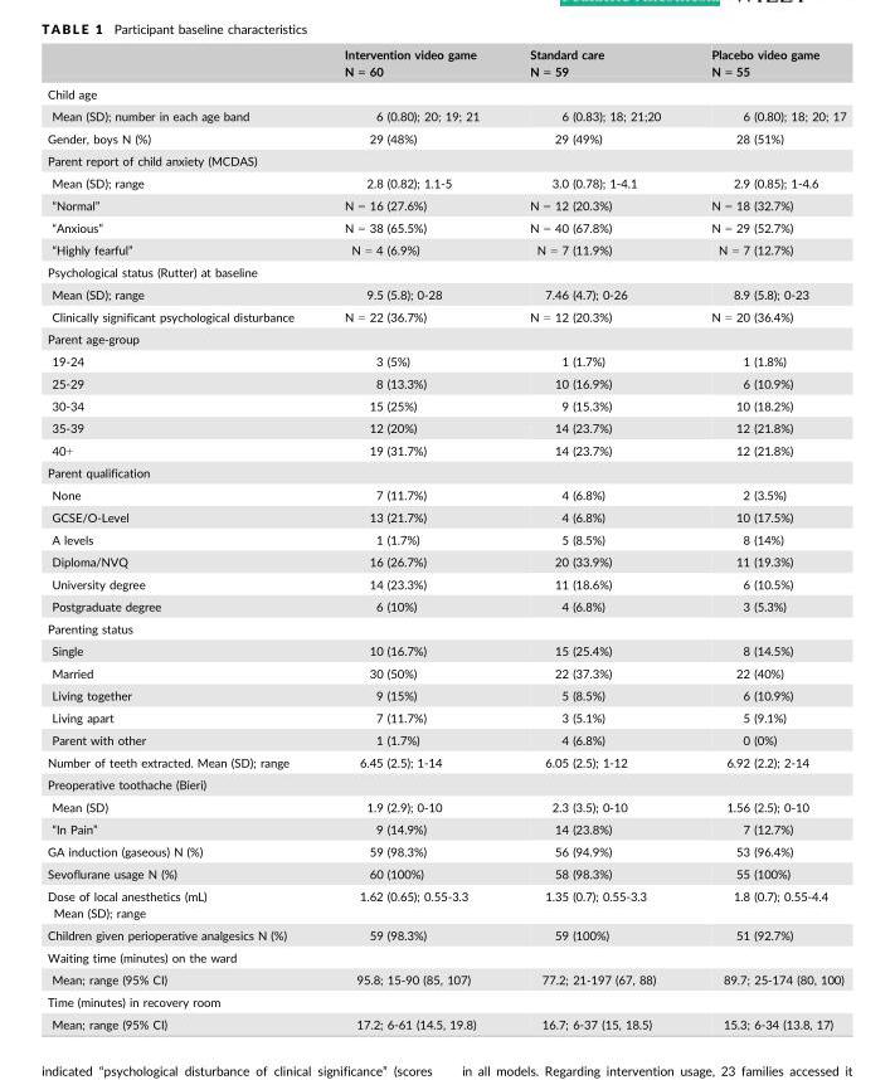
<table><thead><tr><td></td><td>Intervention video game N = 60</td><td>Standard care N = 59</td><td>Placebo video game N = 55</td></tr></thead><tbody><tr><td colspan="4">Child age</td></tr><tr><td>Mean (SD); number in each age band</td><td>6 (0.80); 20; 19; 21</td><td>6 (0.83); 18; 21;20</td><td>6 (0.80); 18; 20; 17</td></tr><tr><td>Gender, boys N (%)</td><td>29 (48%)</td><td>29 (49%)</td><td>28 (51%)</td></tr><tr><td colspan="4">Parent report of child anxiety (MCDAS)</td></tr><tr><td>Mean (SD); range</td><td>2.8 (0.82); 1.1-5</td><td>3.0 (0.78); 1-4.1</td><td>2.9 (0.85); 1-4.6</td></tr><tr><td>“Normal”</td><td>N = 16 (27.6%)</td><td>N = 12 (20.3%)</td><td>N = 18 (32.7%)</td></tr><tr><td>“Anxious”</td><td>N = 38 (65.5%)</td><td>N = 40 (67.8%)</td><td>N = 29 (52.7%)</td></tr><tr><td>“Highly fearful”</td><td>N = 4 (6.9%)</td><td>N = 7 (11.9%)</td><td>N = 7 (12.7%)</td></tr><tr><td colspan="4">Psychological status (Rutter) at baseline</td></tr><tr><td>Mean (SD); range</td><td>9.5 (5.8); 0-28</td><td>7.46 (4.7); 0-26</td><td>8.9 (5.8); 0-23</td></tr><tr><td>Clinically significant psychological disturbance</td><td>N = 22 (36.7%)</td><td>N = 12 (20.3%)</td><td>N = 20 (36.4%)</td></tr><tr><td colspan="4">Parent age-group</td></tr><tr><td>19-24</td><td>3 (5%)</td><td>1 (1.7%)</td><td>1 (1.8%)</td></tr><tr><td>25-29</td><td>8 (13.3%)</td><td>10 (16.9%)</td><td>6 (10.9%)</td></tr><tr><td>30-34</td><td>15 (25%)</td><td>9 (15.3%)</td><td>10 (18.2%)</td></tr><tr><td>35-39</td><td>12 (20%)</td><td>14 (23.7%)</td><td>12 (21.8%)</td></tr><tr><td>40+</td><td>19 (31.7%)</td><td>14 (23.7%)</td><td>12 (21.8%)</td></tr><tr><td colspan="4">Parent qualification</td></tr><tr><td>None</td><td>7 (11.7%)</td><td>4 (6.8%)</td><td>2 (3.5%)</td></tr><tr><td>GCSE/O-Level</td><td>13 (21.7%)</td><td>4 (6.8%)</td><td>10 (17.5%)</td></tr><tr><td>A levels</td><td>1 (1.7%)</td><td>5 (8.5%)</td><td>8 (14%)</td></tr><tr><td>Diploma/NVQ</td><td>16 (26.7%)</td><td>20 (33.9%)</td><td>11 (19.3%)</td></tr><tr><td>University degree</td><td>14 (23.3%)</td><td>11 (18.6%)</td><td>6 (10.5%)</td></tr><tr><td>Postgraduate degree</td><td>6 (10%)</td><td>4 (6.8%)</td><td>3 (5.3%)</td></tr><tr><td colspan="4">Parenting status</td></tr><tr><td>Single</td><td>10 (16.7%)</td><td>15 (25.4%)</td><td>8 (14.5%)</td></tr><tr><td>Married</td><td>30 (50%)</td><td>22 (37.3%)</td><td>22 (40%)</td></tr><tr><td>Living together</td><td>9 (15%)</td><td>5 (8.5%)</td><td>6 (10.9%)</td></tr><tr><td>Living apart</td><td>7 (11.7%)</td><td>3 (5.1%)</td><td>5 (9.1%)</td></tr><tr><td>Parent with other</td><td>1 (1.7%)</td><td>4 (6.8%)</td><td>0 (0%)</td></tr><tr><td>Number of teeth extracted. Mean (SD); range</td><td>6.45 (2.5); 1-14</td><td>6.05 (2.5); 1-12</td><td>6.92 (2.2); 2-14</td></tr><tr><td colspan="4">Preoperative toothache (Bieri)</td></tr><tr><td>Mean (SD)</td><td>1.9 (2.9); 0-10</td><td>2.3 (3.5); 0-10</td><td>1.56 (2.5); 0-10</td></tr><tr><td>“In Pain”</td><td>9 (14.9%)</td><td>14 (23.8%)</td><td>7 (12.7%)</td></tr><tr><td>GA induction (gaseous) N (%)</td><td>59 (98.3%)</td><td>56 (94.9%)</td><td>53 (96.4%)</td></tr><tr><td>Sevoflurane usage N (%)</td><td>60 (100%)</td><td>58 (98.3%)</td><td>55 (100%)</td></tr><tr><td>Dose of local anesthetics (mL) Mean (SD); range</td><td>1.62 (0.65); 0.55-3.3</td><td>1.35 (0.7); 0.55-3.3</td><td>1.8 (0.7); 0.55-4.4</td></tr><tr><td>Children given perioperative analgesics N (%)</td><td>59 (98.3%)</td><td>59 (100%)</td><td>51 (92.7%)</td></tr><tr><td colspan="4">Waiting time (minutes) on the ward</td></tr><tr><td>Mean; range (95% CI)</td><td>95.8; 15-90 (85, 107)</td><td>77.2; 21-197 (67, 88)</td><td>89.7; 25-174 (80, 100)</td></tr><tr><td colspan="4">Time (minutes) in recovery room</td></tr><tr><td>Mean; range (95% CI)</td><td>17.2; 6-61 (14.5, 19.8)</td><td>16.7; 6-37 (15, 18.5)</td><td>15.3; 6-34 (13.8, 17)</td></tr></tbody></table>